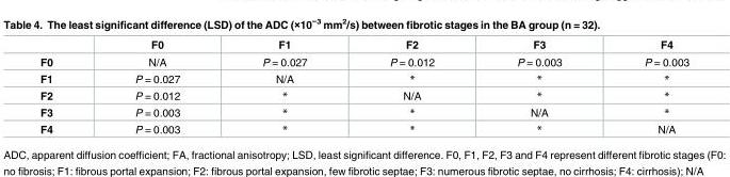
<table><thead><tr><td></td><td>F0</td><td>F1</td><td>F2</td><td>F3</td><td>F4</td></tr></thead><tbody><tr><td>F0</td><td>N/A</td><td>P = 0.027</td><td>P = 0.012</td><td>P = 0.003</td><td>P = 0.003</td></tr><tr><td>F1</td><td>P = 0.027</td><td>N/A</td><td>*</td><td>*</td><td>*</td></tr><tr><td>F2</td><td>P = 0.012</td><td>*</td><td>N/A</td><td>*</td><td>*</td></tr><tr><td>F3</td><td>P = 0.003</td><td>*</td><td>*</td><td>N/A</td><td>*</td></tr><tr><td>F4</td><td>P = 0.003</td><td>*</td><td>*</td><td>*</td><td>N/A</td></tr></tbody></table>